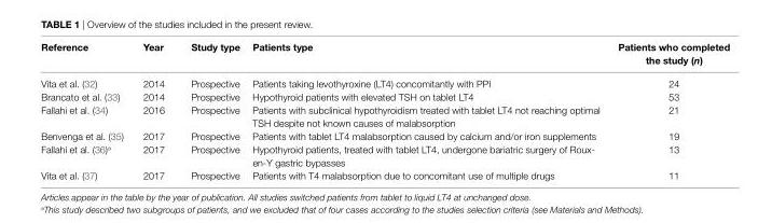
<table><thead><tr><td>Reference</td><td>year</td><td>Study type</td><td>Patients type</td><td>Patients who completed the study (n)</td></tr></thead><tbody><tr><td>Vita et al. (32)</td><td>2014</td><td>Prospective</td><td>Patients taking levothyroxine (LT4) concomitantly with PPI</td><td>24</td></tr><tr><td>Brancato et al. (33)</td><td>2014</td><td>Prospective</td><td>Hypothyroid patients with elevated TSH on tablet LT4</td><td>53</td></tr><tr><td>Fallahi et al. (34)</td><td>2016</td><td>Prospective</td><td>Patients with subclinical hypothyroidism treated with tablet LT4 not reaching optimal TSH despite not known causes of malabsorption</td><td>21</td></tr><tr><td>Benvenga et al. (35)</td><td>2017</td><td>Prospective</td><td>Patients with tablet LT4 malabsorption caused by calcium and/or iron supplements</td><td>19</td></tr><tr><td>Fallahi et al. (36)<sup>a</sup></td><td>2017</td><td>Prospective</td><td>Hypothyroid patients, treated with tablet LT4, undergone bariatric surgery of Roux- en-Y gastric bypasses</td><td>13</td></tr><tr><td>Vita et al. (37)</td><td>2017</td><td>Prospective</td><td>Patients with T4 malabsorption due to concomitant use of multiple drugs</td><td>11</td></tr></tbody></table>